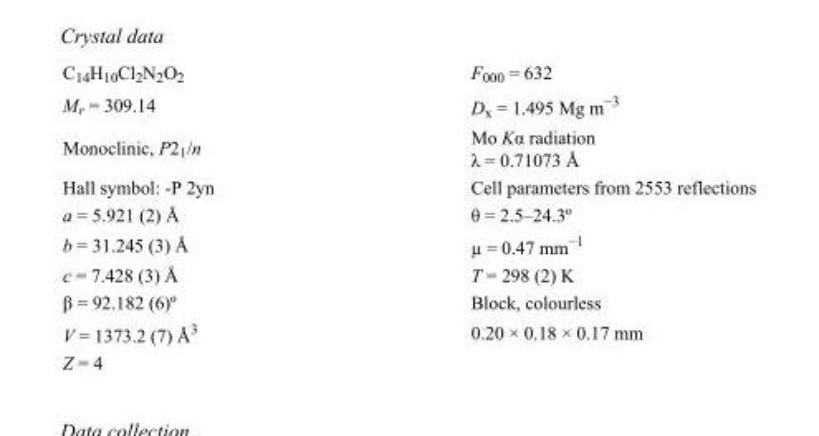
<table><tbody><tr><td>C<sub>14</sub>H<sub>10</sub>Cl<sub>2</sub>N<sub>2</sub>O<sub>2</sub></td><td>F<sub>000</sub> = 632</td></tr><tr><td>M<sub>r</sub> = 309.14</td><td>D<sub>x</sub> = 1.495 Mg m<sup>−3</sup></td></tr><tr><td>Monoclinic, P2<sub>1</sub>/n</td><td>Mo Kα radiation λ = 0.71073 Å</td></tr><tr><td>Hall symbol: -P 2yn</td><td>Cell parameters from 2553 reflections</td></tr><tr><td>a = 5.921 (2) Å</td><td>θ = 2.5–24.3º</td></tr><tr><td>b = 31.245 (3) Å</td><td>µ = 0.47 mm<sup>−1</sup></td></tr><tr><td>c = 7.428 (3) Å</td><td>T = 298 (2) K</td></tr><tr><td>β = 92.182 (6)º</td><td>Block, colourless</td></tr><tr><td>V = 1373.2 (7) Å<sup>3</sup></td><td>0.20 × 0.18 × 0.17 mm</td></tr><tr><td>Z = 4</td><td></td></tr></tbody></table>